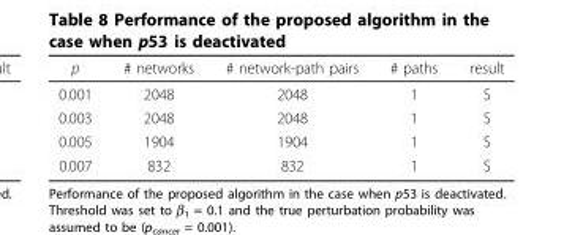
<table><thead><tr><td>p</td><td># networks</td><td># network-path pairs</td><td># paths</td><td>result</td></tr></thead><tbody><tr><td>0.001</td><td>2048</td><td>2048</td><td>1</td><td>S</td></tr><tr><td>0.003</td><td>2048</td><td>2048</td><td>1</td><td>S</td></tr><tr><td>0.005</td><td>1904</td><td>1904</td><td>1</td><td>S</td></tr><tr><td>0.007</td><td>832</td><td>832</td><td>1</td><td>S</td></tr></tbody></table>